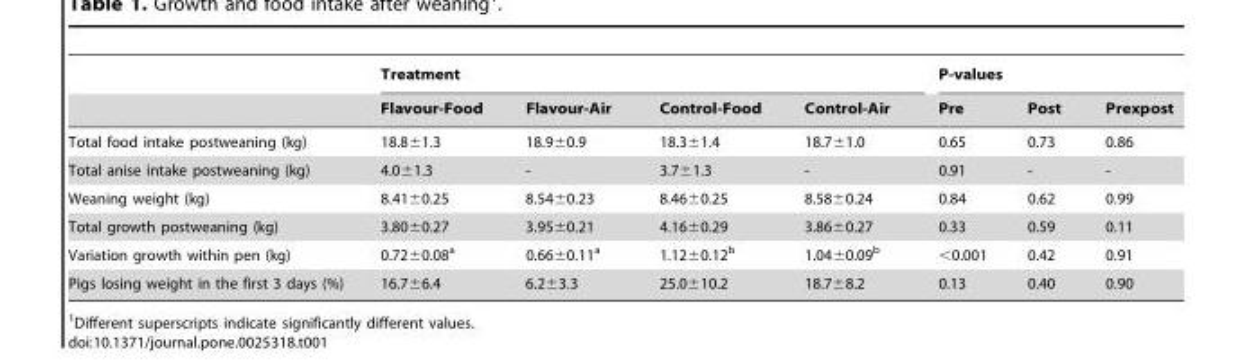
<table><thead><tr><td rowspan="2"></td><td colspan="4">Treatment</td><td colspan="3">P-values</td></tr><tr><td>Flavour-Food</td><td>Flavour-Air</td><td>Control-Food</td><td>Control-Air</td><td>Pre</td><td>Post</td><td>Prexpost</td></tr></thead><tbody><tr><td>Total food intake postweaning (kg)</td><td>18.8±1.3</td><td>18.9±0.9</td><td>18.3±1.4</td><td>18.7±1.0</td><td>0.65</td><td>0.73</td><td>0.86</td></tr><tr><td>Total anise intake postweaning (kg)</td><td>4.0±1.3</td><td>-</td><td>3.7±1.3</td><td>-</td><td>0.91</td><td>-</td><td>-</td></tr><tr><td>Weaning weight (kg)</td><td>8.41±0.25</td><td>8.54±0.23</td><td>8.46±0.25</td><td>8.58±0.24</td><td>0.84</td><td>0.62</td><td>0.99</td></tr><tr><td>Total growth postweaning (kg)</td><td>3.80±0.27</td><td>3.95±0.21</td><td>4.16±0.29</td><td>3.86±0.27</td><td>0.33</td><td>0.59</td><td>0.11</td></tr><tr><td>Variation growth within pen (kg)</td><td>0.72±0.08<sup>a</sup></td><td>0.66±0.11<sup>a</sup></td><td>1.12±0.12<sup>b</sup></td><td>1.04±0.09<sup>b</sup></td><td>&lt;0.001</td><td>0.42</td><td>0.91</td></tr><tr><td>Pigs losing weight in the first 3 days (%)</td><td>16.7±6.4</td><td>6.2±3.3</td><td>25.0±10.2</td><td>18.7±8.2</td><td>0.13</td><td>0.40</td><td>0.90</td></tr></tbody></table>